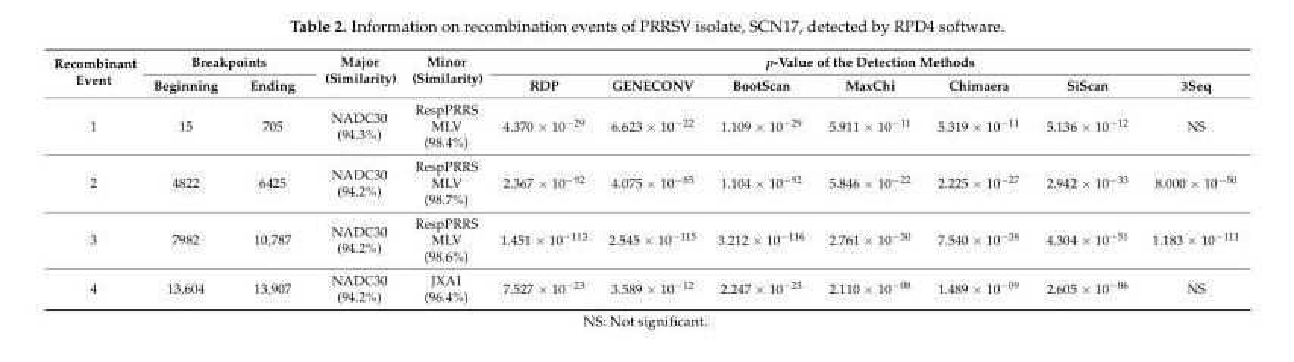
<table><thead><tr><td rowspan="2">Recombinant Event</td><td colspan="2">Breakpoints</td><td rowspan="2">Major (Similarity)</td><td rowspan="2">Minor (Similarity)</td><td colspan="7">p-Value of the Detection Methods</td></tr><tr><td>Beginning</td><td>Ending</td><td>RDP</td><td>GENECONV</td><td>BootScan</td><td>MaxChi</td><td>Chimaera</td><td>SiScan</td><td>3Seq</td></tr></thead><tbody><tr><td>1</td><td>15</td><td>705</td><td>NADC30 (94.3%)</td><td>RespPRRS MLV (98.4%)</td><td>4.370 × 10<sup>−29</sup></td><td>6.623 × 10<sup>−22</sup></td><td>1.109 × 10<sup>−29</sup></td><td>5.911 × 10<sup>−11</sup></td><td>5.319 × 10<sup>−11</sup></td><td>5.136 × 10<sup>−12</sup></td><td>NS</td></tr><tr><td>2</td><td>4822</td><td>6425</td><td>NADC30 (94.2%)</td><td>RespPRRS MLV (98.7%)</td><td>2.367 × 10<sup>−92</sup></td><td>4.075 × 10<sup>−85</sup></td><td>1.104 × 10<sup>−92</sup></td><td>5.846 × 10<sup>−22</sup></td><td>2.225 × 10<sup>−27</sup></td><td>2.942 × 10<sup>−33</sup></td><td>8.000 × 10<sup>−50</sup></td></tr><tr><td>3</td><td>7982</td><td>10,787</td><td>NADC30 (94.2%)</td><td>RespPRRS MLV (98.6%)</td><td>1.451 × 10<sup>−113</sup></td><td>2.545 × 10<sup>−115</sup></td><td>3.212 × 10<sup>−116</sup></td><td>2.761 × 10<sup>−30</sup></td><td>7.540 × 10<sup>−38</sup></td><td>4.304 × 10<sup>−51</sup></td><td>1.183 × 10<sup>−111</sup></td></tr><tr><td>4</td><td>13,604</td><td>13,907</td><td>NADC30 (94.2%)</td><td>JXA1 (96.4%)</td><td>7.527 × 10<sup>−23</sup></td><td>3.589 × 10<sup>−12</sup></td><td>2.247 × 10<sup>−23</sup></td><td>2.110 × 10<sup>−08</sup></td><td>1.489 × 10<sup>−09</sup></td><td>2.605 × 10<sup>−06</sup></td><td>NS</td></tr></tbody></table>